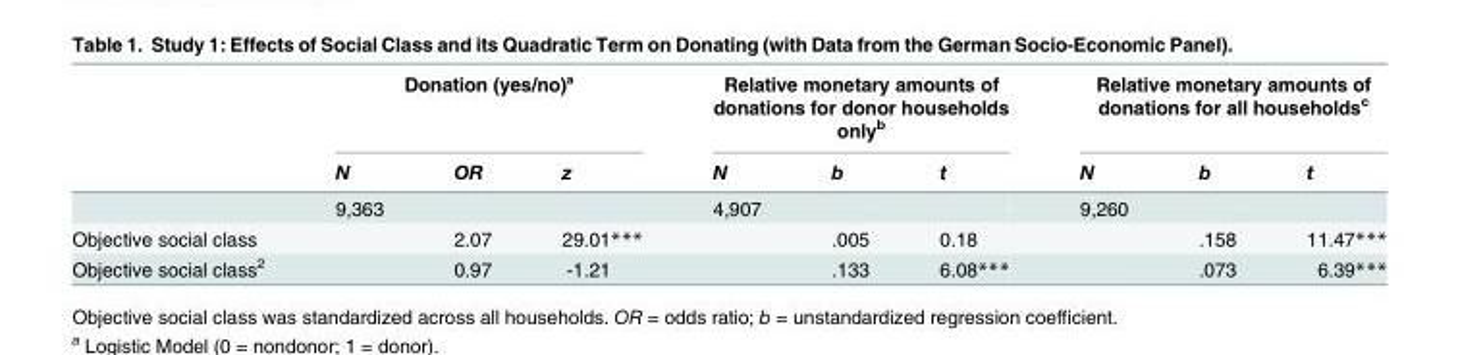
<table><thead><tr><td rowspan="2"></td><td colspan="3">Donation (yes/no)ª</td><td colspan="3">Relative monetary amounts of donations for donor households only<sup>b</sup></td><td colspan="3">Relative monetary amounts of donations for all households<sup>c</sup></td></tr><tr><td>N</td><td>OR</td><td>z</td><td>N</td><td>b</td><td>t</td><td>N</td><td>b</td><td>t</td></tr></thead><tbody><tr><td></td><td>9,363</td><td></td><td></td><td>4,907</td><td></td><td></td><td>9,260</td><td></td><td></td></tr><tr><td>Objective social class</td><td></td><td>2.07</td><td>29.01***</td><td></td><td>.005</td><td>0.18</td><td></td><td>.158</td><td>11.47***</td></tr><tr><td>Objective social class<sup>2</sup></td><td></td><td>0.97</td><td>-1.21</td><td></td><td>.133</td><td>6.08***</td><td></td><td>.073</td><td>6.39***</td></tr></tbody></table>